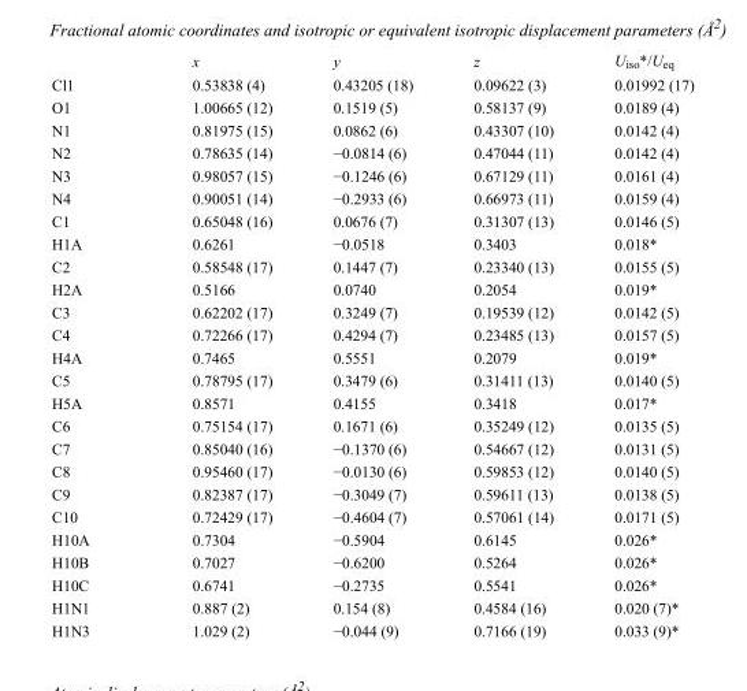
<table><thead><tr><td></td><td>x</td><td>y</td><td>z</td><td>U<sub>iso</sub>*/U<sub>eq</sub></td></tr></thead><tbody><tr><td>Cl1</td><td>0.53838 (4)</td><td>0.43205 (18)</td><td>0.09622 (3)</td><td>0.01992 (17)</td></tr><tr><td>O1</td><td>1.00665 (12)</td><td>0.1519 (5)</td><td>0.58137 (9)</td><td>0.0189 (4)</td></tr><tr><td>N1</td><td>0.81975 (15)</td><td>0.0862 (6)</td><td>0.43307 (10)</td><td>0.0142 (4)</td></tr><tr><td>N2</td><td>0.78635 (14)</td><td>−0.0814 (6)</td><td>0.47044 (11)</td><td>0.0142 (4)</td></tr><tr><td>N3</td><td>0.98057 (15)</td><td>−0.1246 (6)</td><td>0.67129 (11)</td><td>0.0161 (4)</td></tr><tr><td>N4</td><td>0.90051 (14)</td><td>−0.2933 (6)</td><td>0.66973 (11)</td><td>0.0159 (4)</td></tr><tr><td>C1</td><td>0.65048 (16)</td><td>0.0676 (7)</td><td>0.31307 (13)</td><td>0.0146 (5)</td></tr><tr><td>H1A</td><td>0.6261</td><td>−0.0518</td><td>0.3403</td><td>0.018*</td></tr><tr><td>C2</td><td>0.58548 (17)</td><td>0.1447 (7)</td><td>0.23340 (13)</td><td>0.0155 (5)</td></tr><tr><td>H2A</td><td>0.5166</td><td>0.0740</td><td>0.2054</td><td>0.019*</td></tr><tr><td>C3</td><td>0.62202 (17)</td><td>0.3249 (7)</td><td>0.19539 (12)</td><td>0.0142 (5)</td></tr><tr><td>C4</td><td>0.72266 (17)</td><td>0.4294 (7)</td><td>0.23485 (13)</td><td>0.0157 (5)</td></tr><tr><td>H4A</td><td>0.7465</td><td>0.5551</td><td>0.2079</td><td>0.019*</td></tr><tr><td>C5</td><td>0.78795 (17)</td><td>0.3479 (6)</td><td>0.31411 (13)</td><td>0.0140 (5)</td></tr><tr><td>H5A</td><td>0.8571</td><td>0.4155</td><td>0.3418</td><td>0.017*</td></tr><tr><td>C6</td><td>0.75154 (17)</td><td>0.1671 (6)</td><td>0.35249 (12)</td><td>0.0135 (5)</td></tr><tr><td>C7</td><td>0.85040 (16)</td><td>−0.1370 (6)</td><td>0.54667 (12)</td><td>0.0131 (5)</td></tr><tr><td>C8</td><td>0.95460 (17)</td><td>−0.0130 (6)</td><td>0.59853 (12)</td><td>0.0140 (5)</td></tr><tr><td>C9</td><td>0.82387 (17)</td><td>−0.3049 (7)</td><td>0.59611 (13)</td><td>0.0138 (5)</td></tr><tr><td>C10</td><td>0.72429 (17)</td><td>−0.4604 (7)</td><td>0.57061 (14)</td><td>0.0171 (5)</td></tr><tr><td>H10A</td><td>0.7304</td><td>−0.5904</td><td>0.6145</td><td>0.026*</td></tr><tr><td>H10B</td><td>0.7027</td><td>−0.6200</td><td>0.5264</td><td>0.026*</td></tr><tr><td>H10C</td><td>0.6741</td><td>−0.2735</td><td>0.5541</td><td>0.026*</td></tr><tr><td>H1N1</td><td>0.887 (2)</td><td>0.154 (8)</td><td>0.4584 (16)</td><td>0.020 (7)*</td></tr><tr><td>H1N3</td><td>1.029 (2)</td><td>−0.044 (9)</td><td>0.7166 (19)</td><td>0.033 (9)*</td></tr></tbody></table>